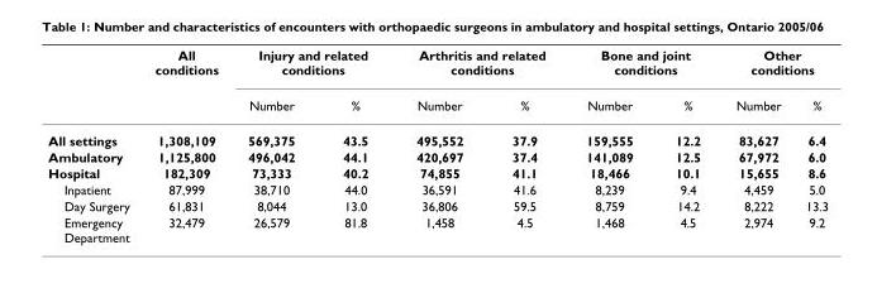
<table><thead><tr><td rowspan="2"></td><td rowspan="2">All conditions</td><td colspan="2">Injury and related conditions</td><td colspan="2">Arthritis and related conditions</td><td colspan="2">Bone and joint conditions</td><td colspan="2">Other conditions</td></tr><tr><td>Number</td><td>%</td><td>Number</td><td>%</td><td>Number</td><td>%</td><td>Number</td><td>%</td></tr></thead><tbody><tr><td>All settings</td><td>1,308,109</td><td>569,375</td><td>43.5</td><td>495,552</td><td>37.9</td><td>159,555</td><td>12.2</td><td>83,627</td><td>6.4</td></tr><tr><td>Ambulatory</td><td>1,125,800</td><td>496,042</td><td>44.1</td><td>420,697</td><td>37.4</td><td>141,089</td><td>12.5</td><td>67,972</td><td>6.0</td></tr><tr><td>Hospital</td><td>182,309</td><td>73,333</td><td>40.2</td><td>74,855</td><td>41.1</td><td>18,466</td><td>10.1</td><td>15,655</td><td>8.6</td></tr><tr><td>Inpatient</td><td>87,999</td><td>38,710</td><td>44.0</td><td>36,591</td><td>41.6</td><td>8,239</td><td>9.4</td><td>4,459</td><td>5.0</td></tr><tr><td>Day Surgery</td><td>61,831</td><td>8,044</td><td>13.0</td><td>36,806</td><td>59.5</td><td>8,759</td><td>14.2</td><td>8,222</td><td>13.3</td></tr><tr><td>Emergency Department</td><td>32,479</td><td>26,579</td><td>81.8</td><td>1,458</td><td>4.5</td><td>1,468</td><td>4.5</td><td>2,974</td><td>9.2</td></tr></tbody></table>